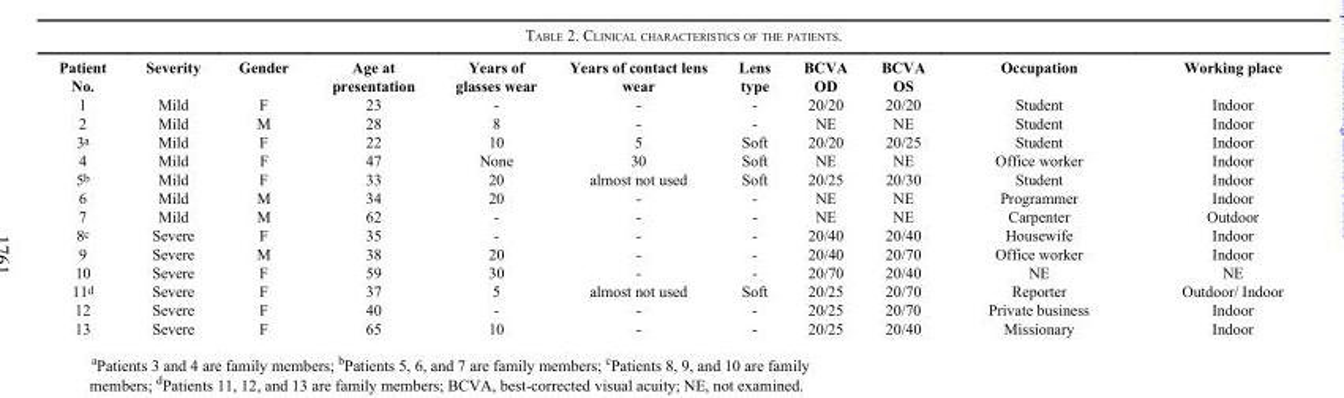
<table><thead><tr><td>Patient No.</td><td>Severity</td><td>Gender</td><td>Age at presentation</td><td>Years of glasses wear</td><td>Years of contact lens wear</td><td>Lens type</td><td>BCVA OD</td><td>BCVA OS</td><td>Occupation</td><td>Working place</td></tr></thead><tbody><tr><td>1</td><td>Mild</td><td>F</td><td>23</td><td>-</td><td>-</td><td>-</td><td>20/20</td><td>20/20</td><td>Student</td><td>Indoor</td></tr><tr><td>2</td><td>Mild</td><td>M</td><td>28</td><td>8</td><td>-</td><td>-</td><td>NE</td><td>NE</td><td>Student</td><td>Indoor</td></tr><tr><td>3<sup>a</sup></td><td>Mild</td><td>F</td><td>22</td><td>10</td><td>5</td><td>Soft</td><td>20/20</td><td>20/25</td><td>Student</td><td>Indoor</td></tr><tr><td>4</td><td>Mild</td><td>F</td><td>47</td><td>None</td><td>30</td><td>Soft</td><td>NE</td><td>NE</td><td>Office worker</td><td>Indoor</td></tr><tr><td>5<sup>b</sup></td><td>Mild</td><td>F</td><td>33</td><td>20</td><td>almost not used</td><td>Soft</td><td>20/25</td><td>20/30</td><td>Student</td><td>Indoor</td></tr><tr><td>6</td><td>Mild</td><td>M</td><td>34</td><td>20</td><td>-</td><td>-</td><td>NE</td><td>NE</td><td>Programmer</td><td>Indoor</td></tr><tr><td>7</td><td>Mild</td><td>M</td><td>62</td><td>-</td><td>-</td><td>-</td><td>NE</td><td>NE</td><td>Carpenter</td><td>Outdoor</td></tr><tr><td>8<sup>c</sup></td><td>Severe</td><td>F</td><td>35</td><td>-</td><td>-</td><td>-</td><td>20/40</td><td>20/40</td><td>Housewife</td><td>Indoor</td></tr><tr><td>9</td><td>Severe</td><td>M</td><td>38</td><td>20</td><td>-</td><td>-</td><td>20/40</td><td>20/70</td><td>Office worker</td><td>Indoor</td></tr><tr><td>10</td><td>Severe</td><td>F</td><td>59</td><td>30</td><td>-</td><td>-</td><td>20/70</td><td>20/40</td><td>NE</td><td>NE</td></tr><tr><td>11<sup>d</sup></td><td>Severe</td><td>F</td><td>37</td><td>5</td><td>almost not used</td><td>Soft</td><td>20/25</td><td>20/70</td><td>Reporter</td><td>Outdoor/ Indoor</td></tr><tr><td>12</td><td>Severe</td><td>F</td><td>40</td><td>-</td><td>-</td><td>-</td><td>20/25</td><td>20/70</td><td>Private business</td><td>Indoor</td></tr><tr><td>13</td><td>Severe</td><td>F</td><td>65</td><td>10</td><td>-</td><td>-</td><td>20/25</td><td>20/40</td><td>Missionary</td><td>Indoor</td></tr></tbody></table>